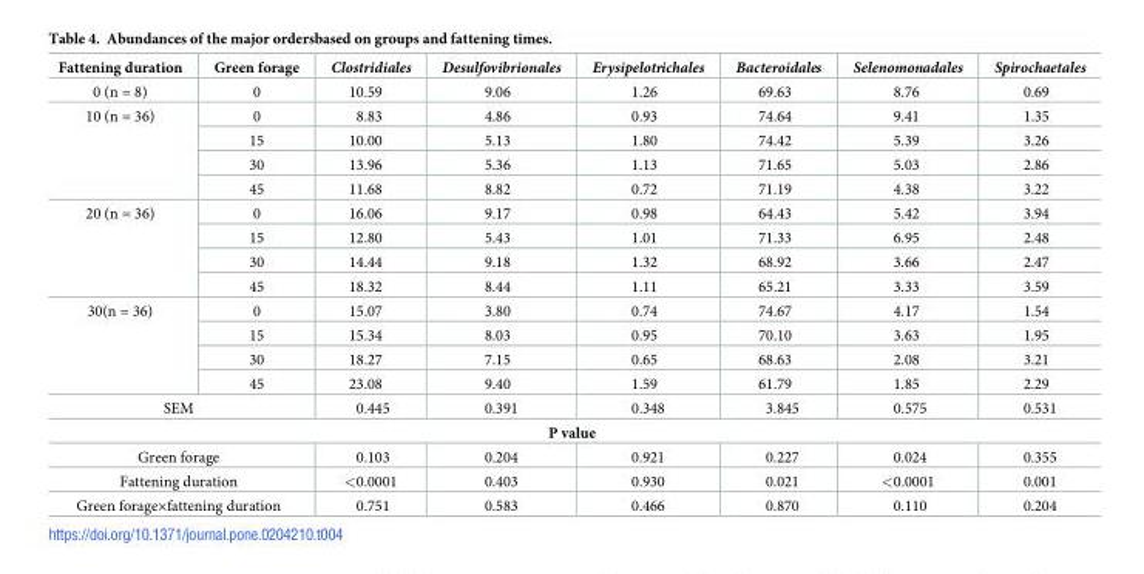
<table><thead><tr><td>Fattening duration</td><td>Green forage</td><td>Clostridiales</td><td>Desulfovibrionales</td><td>Erysipelotrichales</td><td>Bacteroidales</td><td>Selenomonadales</td><td>Spirochaetales</td></tr></thead><tbody><tr><td>0 (n = 8)</td><td>0</td><td>10.59</td><td>9.06</td><td>1.26</td><td>69.63</td><td>8.76</td><td>0.69</td></tr><tr><td rowspan="4">10 (n = 36)</td><td>0</td><td>8.83</td><td>4.86</td><td>0.93</td><td>74.64</td><td>9.41</td><td>1.35</td></tr><tr><td>15</td><td>10.00</td><td>5.13</td><td>1.80</td><td>74.42</td><td>5.39</td><td>3.26</td></tr><tr><td>30</td><td>13.96</td><td>5.36</td><td>1.13</td><td>71.65</td><td>5.03</td><td>2.86</td></tr><tr><td>45</td><td>11.68</td><td>8.82</td><td>0.72</td><td>71.19</td><td>4.38</td><td>3.22</td></tr><tr><td rowspan="4">20 (n = 36)</td><td>0</td><td>16.06</td><td>9.17</td><td>0.98</td><td>64.43</td><td>5.42</td><td>3.94</td></tr><tr><td>15</td><td>12.80</td><td>5.43</td><td>1.01</td><td>71.33</td><td>6.95</td><td>2.48</td></tr><tr><td>30</td><td>14.44</td><td>9.18</td><td>1.32</td><td>68.92</td><td>3.66</td><td>2.47</td></tr><tr><td>45</td><td>18.32</td><td>8.44</td><td>1.11</td><td>65.21</td><td>3.33</td><td>3.59</td></tr><tr><td rowspan="4">30(n = 36)</td><td>0</td><td>15.07</td><td>3.80</td><td>0.74</td><td>74.67</td><td>4.17</td><td>1.54</td></tr><tr><td>15</td><td>15.34</td><td>8.03</td><td>0.95</td><td>70.10</td><td>3.63</td><td>1.95</td></tr><tr><td>30</td><td>18.27</td><td>7.15</td><td>0.65</td><td>68.63</td><td>2.08</td><td>3.21</td></tr><tr><td>45</td><td>23.08</td><td>9.40</td><td>1.59</td><td>61.79</td><td>1.85</td><td>2.29</td></tr><tr><td colspan="2">SEM</td><td>0.445</td><td>0.391</td><td>0.348</td><td>3.845</td><td>0.575</td><td>0.531</td></tr><tr><td colspan="8">P value</td></tr><tr><td colspan="2">Green forage</td><td>0.103</td><td>0.204</td><td>0.921</td><td>0.227</td><td>0.024</td><td>0.355</td></tr><tr><td colspan="2">Fattening duration</td><td>&lt;0.0001</td><td>0.403</td><td>0.930</td><td>0.021</td><td>&lt;0.0001</td><td>0.001</td></tr><tr><td colspan="2">Green forage×fattening duration</td><td>0.751</td><td>0.583</td><td>0.466</td><td>0.870</td><td>0.110</td><td>0.204</td></tr></tbody></table>